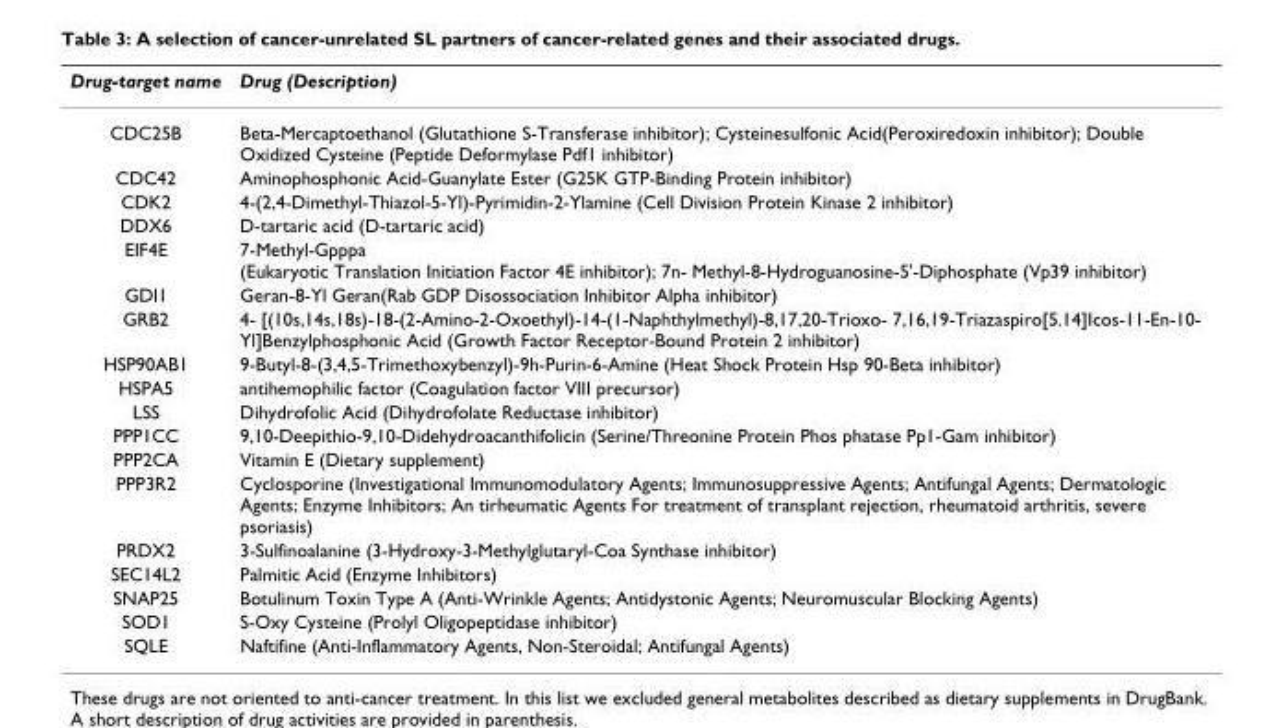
<table><thead><tr><td>Drug-target name</td><td>Drug (Description)</td></tr></thead><tbody><tr><td>CDC25B</td><td>Beta-Mercaptoethanol (Glutathione S-Transferase inhibitor); Cysteinesulfonic Acid(Peroxiredoxin inhibitor); Double Oxidized Cysteine (Peptide Deformylase Pdf1 inhibitor)</td></tr><tr><td>CDC42</td><td>Aminophosphonic Acid-Guanylate Ester (G25K GTP-Binding Protein inhibitor)</td></tr><tr><td>CDK2</td><td>4-(2,4-Dimethyl-Thiazol-5-Yl)-Pyrimidin-2-Ylamine (Cell Division Protein Kinase 2 inhibitor)</td></tr><tr><td>DDX6</td><td>D-tartaric acid (D-tartaric acid)</td></tr><tr><td>EIF4E</td><td>7-Methyl-Gpppa (Eukaryotic Translation Initiation Factor 4E inhibitor); 7n- Methyl-8-Hydroguanosine-5&#x27;-Diphosphate (Vp39 inhibitor)</td></tr><tr><td>GDI1</td><td>Geran-8-Yl Geran(Rab GDP Disossociation Inhibitor Alpha inhibitor)</td></tr><tr><td>GRB2</td><td>4- [(10s,14s,18s)-18-(2-Amino-2-Oxoethyl)-14-(1-Naphthylmethyl)-8,17,20-Trioxo- 7,16,19-Triazaspiro[5.14]Icos-11-En-10- Yl]Benzylphosphonic Acid (Growth Factor Receptor-Bound Protein 2 inhibitor)</td></tr><tr><td>HSP90AB1</td><td>9-Butyl-8-(3,4,5-Trimethoxybenzyl)-9h-Purin-6-Amine (Heat Shock Protein Hsp 90-Beta inhibitor)</td></tr><tr><td>HSPA5</td><td>antihemophilic factor (Coagulation factor VIII precursor)</td></tr><tr><td>LSS</td><td>Dihydrofolic Acid (Dihydrofolate Reductase inhibitor)</td></tr><tr><td>PPP1CC</td><td>9,10-Deepithio-9,10-Didehydroacanthifolicin (Serine/Threonine Protein Phos phatase Pp1-Gam inhibitor)</td></tr><tr><td>PPP2CA</td><td>Vitamin E (Dietary supplement)</td></tr><tr><td>PPP3R2</td><td>Cyclosporine (Investigational Immunomodulatory Agents; Immunosuppressive Agents; Antifungal Agents; Dermatologic Agents; Enzyme Inhibitors; An tirheumatic Agents For treatment of transplant rejection, rheumatoid arthritis, severe psoriasis)</td></tr><tr><td>PRDX2</td><td>3-Sulfinoalanine (3-Hydroxy-3-Methylglutaryl-Coa Synthase inhibitor)</td></tr><tr><td>SEC14L2</td><td>Palmitic Acid (Enzyme Inhibitors)</td></tr><tr><td>SNAP25</td><td>Botulinum Toxin Type A (Anti-Wrinkle Agents; Antidystonic Agents; Neuromuscular Blocking Agents)</td></tr><tr><td>SOD1</td><td>S-Oxy Cysteine (Prolyl Oligopeptidase inhibitor)</td></tr><tr><td>SQLE</td><td>Naftifine (Anti-Inflammatory Agents, Non-Steroidal; Antifungal Agents)</td></tr></tbody></table>